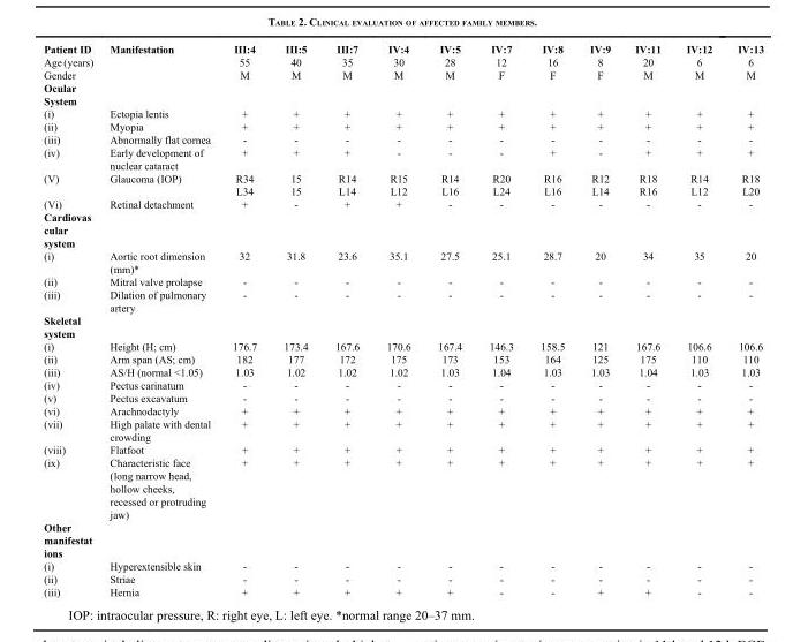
<table><thead><tr><td>Patient ID</td><td>Manifestation</td><td>III:4</td><td>III:5</td><td>III:7</td><td>IV:4</td><td>IV:5</td><td>IV:7</td><td>IV:8</td><td>IV:9</td><td>IV:11</td><td>IV:12</td><td>IV:13</td></tr></thead><tbody><tr><td>Age (years)</td><td></td><td>55</td><td>40</td><td>35</td><td>30</td><td>28</td><td>12</td><td>16</td><td>8</td><td>20</td><td>6</td><td>6</td></tr><tr><td>Gender</td><td></td><td>M</td><td>M</td><td>M</td><td>M</td><td>M</td><td>F</td><td>F</td><td>F</td><td>M</td><td>M</td><td>M</td></tr><tr><td colspan="13">Ocular System</td></tr><tr><td>(i)</td><td>Ectopia lentis</td><td>+</td><td>+</td><td>+</td><td>+</td><td>+</td><td>+</td><td>+</td><td>+</td><td>+</td><td>+</td><td>+</td></tr><tr><td>(ii)</td><td>Myopia</td><td>+</td><td>+</td><td>+</td><td>+</td><td>+</td><td>+</td><td>+</td><td>+</td><td>+</td><td>+</td><td>+</td></tr><tr><td>(iii)</td><td>Abnormally flat cornea</td><td>-</td><td>-</td><td>-</td><td>-</td><td>-</td><td>-</td><td>-</td><td>-</td><td>-</td><td>-</td><td>-</td></tr><tr><td>(iv)</td><td>Early development of nuclear cataract</td><td>+</td><td>+</td><td>+</td><td>-</td><td>-</td><td>-</td><td>+</td><td>-</td><td>+</td><td>+</td><td>+</td></tr><tr><td rowspan="2">(V)</td><td>Glaucoma (IOP)</td><td>R34</td><td>15</td><td>R14</td><td>R15</td><td>R14</td><td>R20</td><td>R16</td><td>R12</td><td>R18</td><td>R14</td><td>R18</td></tr><tr><td></td><td>L34</td><td>15</td><td>L14</td><td>L12</td><td>L16</td><td>L24</td><td>L16</td><td>L14</td><td>R16</td><td>L12</td><td>L20</td></tr><tr><td>(Vi)</td><td>Retinal detachment</td><td>+</td><td>-</td><td>+</td><td>+</td><td>-</td><td>-</td><td>-</td><td>-</td><td>-</td><td>-</td><td>-</td></tr><tr><td colspan="13">Cardiovas cular system</td></tr><tr><td>(i)</td><td>Aortic root dimension (mm)*</td><td>32</td><td>31.8</td><td>23.6</td><td>35.1</td><td>27.5</td><td>25.1</td><td>28.7</td><td>20</td><td>34</td><td>35</td><td>20</td></tr><tr><td>(ii)</td><td>Mitral valve prolapse</td><td>-</td><td>-</td><td>-</td><td>-</td><td>-</td><td>-</td><td>-</td><td>-</td><td>-</td><td>-</td><td>-</td></tr><tr><td>(iii)</td><td>Dilation of pulmonary artery</td><td>-</td><td>-</td><td>-</td><td>-</td><td>-</td><td>-</td><td>-</td><td>-</td><td>-</td><td>-</td><td>-</td></tr><tr><td colspan="13">Skeletal system</td></tr><tr><td>(i)</td><td>Height (H; cm)</td><td>176.7</td><td>173.4</td><td>167.6</td><td>170.6</td><td>167.4</td><td>146.3</td><td>158.5</td><td>121</td><td>167.6</td><td>106.6</td><td>106.6</td></tr><tr><td>(ii)</td><td>Arm span (AS; cm)</td><td>182</td><td>177</td><td>172</td><td>175</td><td>173</td><td>153</td><td>164</td><td>125</td><td>175</td><td>110</td><td>110</td></tr><tr><td>(iii)</td><td>AS/H (normal &lt;1.05)</td><td>1.03</td><td>1.02</td><td>1.02</td><td>1.02</td><td>1.03</td><td>1.04</td><td>1.03</td><td>1.03</td><td>1.04</td><td>1.03</td><td>1.03</td></tr><tr><td>(iv)</td><td>Pectus carinatum</td><td>-</td><td>-</td><td>-</td><td>-</td><td>-</td><td>-</td><td>-</td><td>-</td><td>-</td><td>-</td><td>-</td></tr><tr><td>(v)</td><td>Pectus excavatum</td><td>-</td><td>-</td><td>-</td><td>-</td><td>-</td><td>-</td><td>-</td><td>-</td><td>-</td><td>-</td><td>-</td></tr><tr><td>(vi)</td><td>Arachnodactyly</td><td>+</td><td>+</td><td>+</td><td>+</td><td>+</td><td>+</td><td>+</td><td>+</td><td>+</td><td>+</td><td>+</td></tr><tr><td>(vii)</td><td>High palate with dental crowding</td><td>+</td><td>+</td><td>+</td><td>+</td><td>+</td><td>+</td><td>+</td><td>+</td><td>+</td><td>+</td><td>+</td></tr><tr><td>(viii)</td><td>Flatfoot</td><td>+</td><td>+</td><td>+</td><td>+</td><td>+</td><td>+</td><td>+</td><td>+</td><td>+</td><td>+</td><td>+</td></tr><tr><td>(ix)</td><td>Characteristic face (long narrow head, hollow cheeks, recessed or protruding jaw)</td><td>+</td><td>+</td><td>+</td><td>+</td><td>+</td><td>+</td><td>+</td><td>+</td><td>+</td><td>+</td><td>+</td></tr><tr><td colspan="13">Other manifestat ions</td></tr><tr><td>(i)</td><td>Hyperextensible skin</td><td>-</td><td>-</td><td>-</td><td>-</td><td>-</td><td>-</td><td>-</td><td>-</td><td>-</td><td>-</td><td>-</td></tr><tr><td>(ii)</td><td>Striae</td><td>-</td><td>-</td><td>-</td><td>-</td><td>-</td><td>-</td><td>-</td><td>-</td><td>-</td><td>-</td><td>-</td></tr><tr><td>(iii)</td><td>Hernia</td><td>+</td><td>+</td><td>+</td><td>+</td><td>+</td><td>-</td><td>-</td><td>+</td><td>+</td><td>-</td><td>-</td></tr></tbody></table>